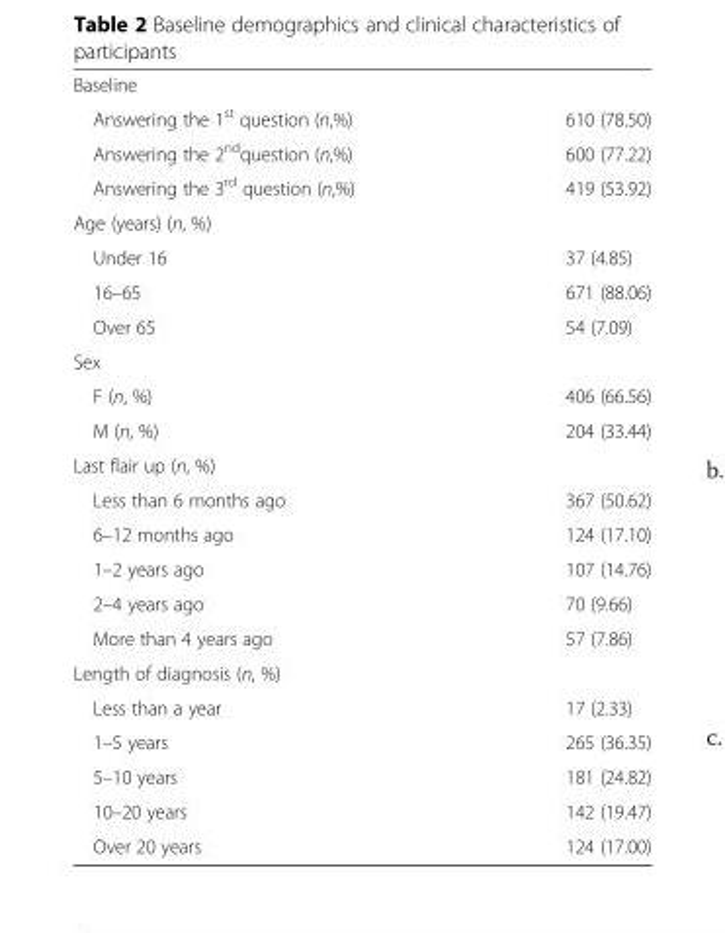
<table><tbody><tr><td colspan="2">Baseline</td></tr><tr><td>Answering the 1<sup>st</sup> question (n,%)</td><td>610 (78.50)</td></tr><tr><td>Answering the 2<sup>nd</sup>question (n,%)</td><td>600 (77.22)</td></tr><tr><td>Answering the 3<sup>rd</sup> question (n,%)</td><td>419 (53.92)</td></tr><tr><td colspan="2">Age (years) (n, %)</td></tr><tr><td>Under 16</td><td>37 (4.85)</td></tr><tr><td>16–65</td><td>671 (88.06)</td></tr><tr><td>Over 65</td><td>54 (7.09)</td></tr><tr><td colspan="2">Sex</td></tr><tr><td>F (n, %)</td><td>406 (66.56)</td></tr><tr><td>M (n, %)</td><td>204 (33.44)</td></tr><tr><td colspan="2">Last flair up (n, %)</td></tr><tr><td>Less than 6 months ago</td><td>367 (50.62)</td></tr><tr><td>6–12 months ago</td><td>124 (17.10)</td></tr><tr><td>1–2 years ago</td><td>107 (14.76)</td></tr><tr><td>2–4 years ago</td><td>70 (9.66)</td></tr><tr><td>More than 4 years ago</td><td>57 (7.86)</td></tr><tr><td colspan="2">Length of diagnosis (n, %)</td></tr><tr><td>Less than a year</td><td>17 (2.33)</td></tr><tr><td>1–5 years</td><td>265 (36.35)</td></tr><tr><td>5–10 years</td><td>181 (24.82)</td></tr><tr><td>10–20 years</td><td>142 (19.47)</td></tr><tr><td>Over 20 years</td><td>124 (17.00)</td></tr></tbody></table>